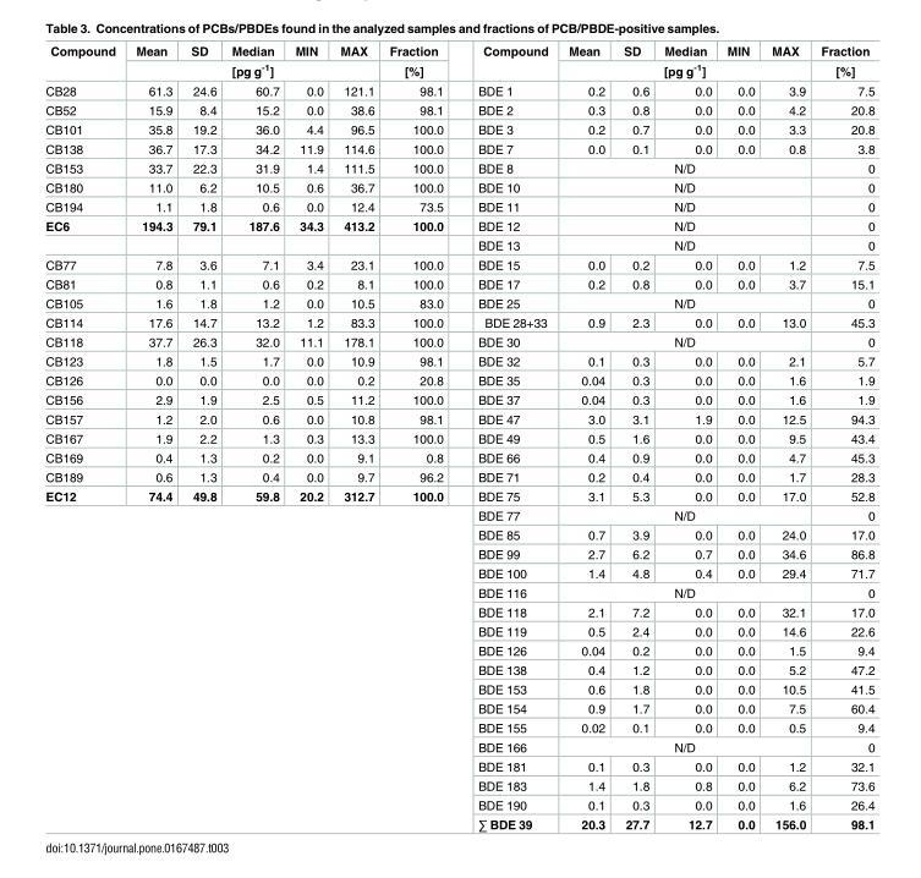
<table><thead><tr><td rowspan="2">Compound</td><td>Mean</td><td>SD</td><td>Median</td><td>MIN</td><td>MAX</td><td rowspan="2">Fraction [%]</td><td rowspan="2">Compound</td><td>Mean</td><td>SD</td><td>Median</td><td>MIN</td><td>MAX</td><td rowspan="2">Fraction [%]</td></tr><tr><td colspan="5">[pg g<sup>-1</sup>]</td><td colspan="5">[pg g<sup>-1</sup>]</td></tr></thead><tbody><tr><td>CB28</td><td>61.3</td><td>24.6</td><td>60.7</td><td>0.0</td><td>121.1</td><td>98.1</td><td>BDE 1</td><td>0.2</td><td>0.6</td><td>0.0</td><td>0.0</td><td>3.9</td><td>7.5</td></tr><tr><td>CB52</td><td>15.9</td><td>8.4</td><td>15.2</td><td>0.0</td><td>38.6</td><td>98.1</td><td>BDE 2</td><td>0.3</td><td>0.8</td><td>0.0</td><td>0.0</td><td>4.2</td><td>20.8</td></tr><tr><td>CB101</td><td>35.8</td><td>19.2</td><td>36.0</td><td>4.4</td><td>96.5</td><td>100.0</td><td>BDE 3</td><td>0.2</td><td>0.7</td><td>0.0</td><td>0.0</td><td>3.3</td><td>20.8</td></tr><tr><td>CB138</td><td>36.7</td><td>17.3</td><td>34.2</td><td>11.9</td><td>114.6</td><td>100.0</td><td>BDE 7</td><td>0.0</td><td>0.1</td><td>0.0</td><td>0.0</td><td>0.8</td><td>3.8</td></tr><tr><td>CB153</td><td>33.7</td><td>22.3</td><td>31.9</td><td>1.4</td><td>111.5</td><td>100.0</td><td>BDE 8</td><td colspan="5">N/D</td><td>0</td></tr><tr><td>CB180</td><td>11.0</td><td>6.2</td><td>10.5</td><td>0.6</td><td>36.7</td><td>100.0</td><td>BDE 10</td><td colspan="5">N/D</td><td>0</td></tr><tr><td>CB194</td><td>1.1</td><td>1.8</td><td>0.6</td><td>0.0</td><td>12.4</td><td>73.5</td><td>BDE 11</td><td colspan="5">N/D</td><td>0</td></tr><tr><td rowspan="2">EC6</td><td>194.3</td><td>79.1</td><td>187.6</td><td>34.3</td><td>413.2</td><td>100.0</td><td>BDE 12</td><td colspan="5">N/D</td><td>0</td></tr><tr><td></td><td></td><td></td><td></td><td></td><td></td><td>BDE 13</td><td colspan="5">N/D</td><td>0</td></tr><tr><td>CB77</td><td>7.8</td><td>3.6</td><td>7.1</td><td>3.4</td><td>23.1</td><td>100.0</td><td>BDE 15</td><td>0.0</td><td>0.2</td><td>0.0</td><td>0.0</td><td>1.2</td><td>7.5</td></tr><tr><td>CB81</td><td>0.8</td><td>1.1</td><td>0.6</td><td>0.2</td><td>8.1</td><td>100.0</td><td>BDE 17</td><td>0.2</td><td>0.8</td><td>0.0</td><td>0.0</td><td>3.7</td><td>15.1</td></tr><tr><td>CB105</td><td>1.6</td><td>1.8</td><td>1.2</td><td>0.0</td><td>10.5</td><td>83.0</td><td>BDE 25</td><td colspan="5">N/D</td><td>0</td></tr><tr><td>CB114</td><td>17.6</td><td>14.7</td><td>13.2</td><td>1.2</td><td>83.3</td><td>100.0</td><td>BDE 28+33</td><td>0.9</td><td>2.3</td><td>0.0</td><td>0.0</td><td>13.0</td><td>45.3</td></tr><tr><td>CB118</td><td>37.7</td><td>26.3</td><td>32.0</td><td>11.1</td><td>178.1</td><td>100.0</td><td>BDE 30</td><td colspan="5">N/D</td><td>0</td></tr><tr><td>CB123</td><td>1.8</td><td>1.5</td><td>1.7</td><td>0.0</td><td>10.9</td><td>98.1</td><td>BDE 32</td><td>0.1</td><td>0.3</td><td>0.0</td><td>0.0</td><td>2.1</td><td>5.7</td></tr><tr><td>CB126</td><td>0.0</td><td>0.0</td><td>0.0</td><td>0.0</td><td>0.2</td><td>20.8</td><td>BDE 35</td><td>0.04</td><td>0.3</td><td>0.0</td><td>0.0</td><td>1.6</td><td>1.9</td></tr><tr><td>CB156</td><td>2.9</td><td>1.9</td><td>2.5</td><td>0.5</td><td>11.2</td><td>100.0</td><td>BDE 37</td><td>0.04</td><td>0.3</td><td>0.0</td><td>0.0</td><td>1.6</td><td>1.9</td></tr><tr><td>CB157</td><td>1.2</td><td>2.0</td><td>0.6</td><td>0.0</td><td>10.8</td><td>98.1</td><td>BDE 47</td><td>3.0</td><td>3.1</td><td>1.9</td><td>0.0</td><td>12.5</td><td>94.3</td></tr><tr><td>CB167</td><td>1.9</td><td>2.2</td><td>1.3</td><td>0.3</td><td>13.3</td><td>100.0</td><td>BDE 49</td><td>0.5</td><td>1.6</td><td>0.0</td><td>0.0</td><td>9.5</td><td>43.4</td></tr><tr><td>CB169</td><td>0.4</td><td>1.3</td><td>0.2</td><td>0.0</td><td>9.1</td><td>0.8</td><td>BDE 66</td><td>0.4</td><td>0.9</td><td>0.0</td><td>0.0</td><td>4.7</td><td>45.3</td></tr><tr><td>CB189</td><td>0.6</td><td>1.3</td><td>0.4</td><td>0.0</td><td>9.7</td><td>96.2</td><td>BDE 71</td><td>0.2</td><td>0.4</td><td>0.0</td><td>0.0</td><td>1.7</td><td>28.3</td></tr><tr><td>EC12</td><td>74.4</td><td>49.8</td><td>59.8</td><td>20.2</td><td>312.7</td><td>100.0</td><td>BDE 75</td><td>3.1</td><td>5.3</td><td>0.0</td><td>0.0</td><td>17.0</td><td>52.8</td></tr><tr><td rowspan="17" colspan="7"></td><td>BDE 77</td><td colspan="5">N/D</td><td>0</td></tr><tr><td>BDE 85</td><td>0.7</td><td>3.9</td><td>0.0</td><td>0.0</td><td>24.0</td><td>17.0</td></tr><tr><td>BDE 99</td><td>2.7</td><td>6.2</td><td>0.7</td><td>0.0</td><td>34.6</td><td>86.8</td></tr><tr><td>BDE 100</td><td>1.4</td><td>4.8</td><td>0.4</td><td>0.0</td><td>29.4</td><td>71.7</td></tr><tr><td>BDE 116</td><td colspan="5">N/D</td><td>0</td></tr><tr><td>BDE 118</td><td>2.1</td><td>7.2</td><td>0.0</td><td>0.0</td><td>32.1</td><td>17.0</td></tr><tr><td>BDE 119</td><td>0.5</td><td>2.4</td><td>0.0</td><td>0.0</td><td>14.6</td><td>22.6</td></tr><tr><td>BDE 126</td><td>0.04</td><td>0.2</td><td>0.0</td><td>0.0</td><td>1.5</td><td>9.4</td></tr><tr><td>BDE 138</td><td>0.4</td><td>1.2</td><td>0.0</td><td>0.0</td><td>5.2</td><td>47.2</td></tr><tr><td>BDE 153</td><td>0.6</td><td>1.8</td><td>0.0</td><td>0.0</td><td>10.5</td><td>41.5</td></tr><tr><td>BDE 154</td><td>0.9</td><td>1.7</td><td>0.0</td><td>0.0</td><td>7.5</td><td>60.4</td></tr><tr><td>BDE 155</td><td>0.02</td><td>0.1</td><td>0.0</td><td>0.0</td><td>0.5</td><td>9.4</td></tr><tr><td>BDE 166</td><td colspan="5">N/D</td><td>0</td></tr><tr><td>BDE 181</td><td>0.1</td><td>0.3</td><td>0.0</td><td>0.0</td><td>1.2</td><td>32.1</td></tr><tr><td>BDE 183</td><td>1.4</td><td>1.8</td><td>0.8</td><td>0.0</td><td>6.2</td><td>73.6</td></tr><tr><td>BDE 190</td><td>0.1</td><td>0.3</td><td>0.0</td><td>0.0</td><td>1.6</td><td>26.4</td></tr><tr><td>∑ BDE 39</td><td>20.3</td><td>27.7</td><td>12.7</td><td>0.0</td><td>156.0</td><td>98.1</td></tr></tbody></table>